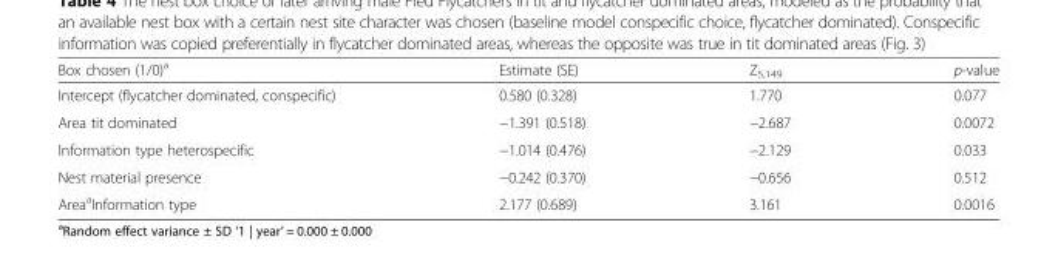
<table><thead><tr><td>Box chosen (1/0)<sup>a</sup></td><td>Estimate (SE)</td><td>Z<sub>5,149</sub></td><td>p-value</td></tr></thead><tbody><tr><td>Intercept (flycatcher dominated, conspecific)</td><td>0.580 (0.328)</td><td>1.770</td><td>0.077</td></tr><tr><td>Area tit dominated</td><td>−1.391 (0.518)</td><td>−2.687</td><td>0.0072</td></tr><tr><td>Information type heterospecific</td><td>−1.014 (0.476)</td><td>−2.129</td><td>0.033</td></tr><tr><td>Nest material presence</td><td>−0.242 (0.370)</td><td>−0.656</td><td>0.512</td></tr><tr><td>Area<sup>a</sup>Information type</td><td>2.177 (0.689)</td><td>3.161</td><td>0.0016</td></tr></tbody></table>